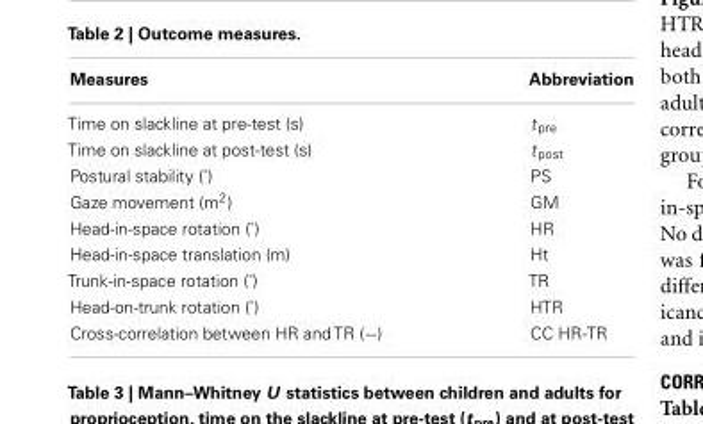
<table><thead><tr><td>Measures</td><td>Abbreviation</td></tr></thead><tbody><tr><td>Time on slackline at pre-test (s)</td><td>t<sub>pre</sub></td></tr><tr><td>Time on slackline at post-test (s)</td><td>t<sub>post</sub></td></tr><tr><td>Postural stability (˚)</td><td>PS</td></tr><tr><td>Gaze movement (m<sup>2</sup>)</td><td>GM</td></tr><tr><td>Head-in-space rotation (˚)</td><td>HR</td></tr><tr><td>Head-in-space translation (m)</td><td>Ht</td></tr><tr><td>Trunk-in-space rotation (˚)</td><td>TR</td></tr><tr><td>Head-on-trunk rotation (˚)</td><td>HTR</td></tr><tr><td>Cross-correlation between HR and TR (−)</td><td>CC HR-TR</td></tr></tbody></table>